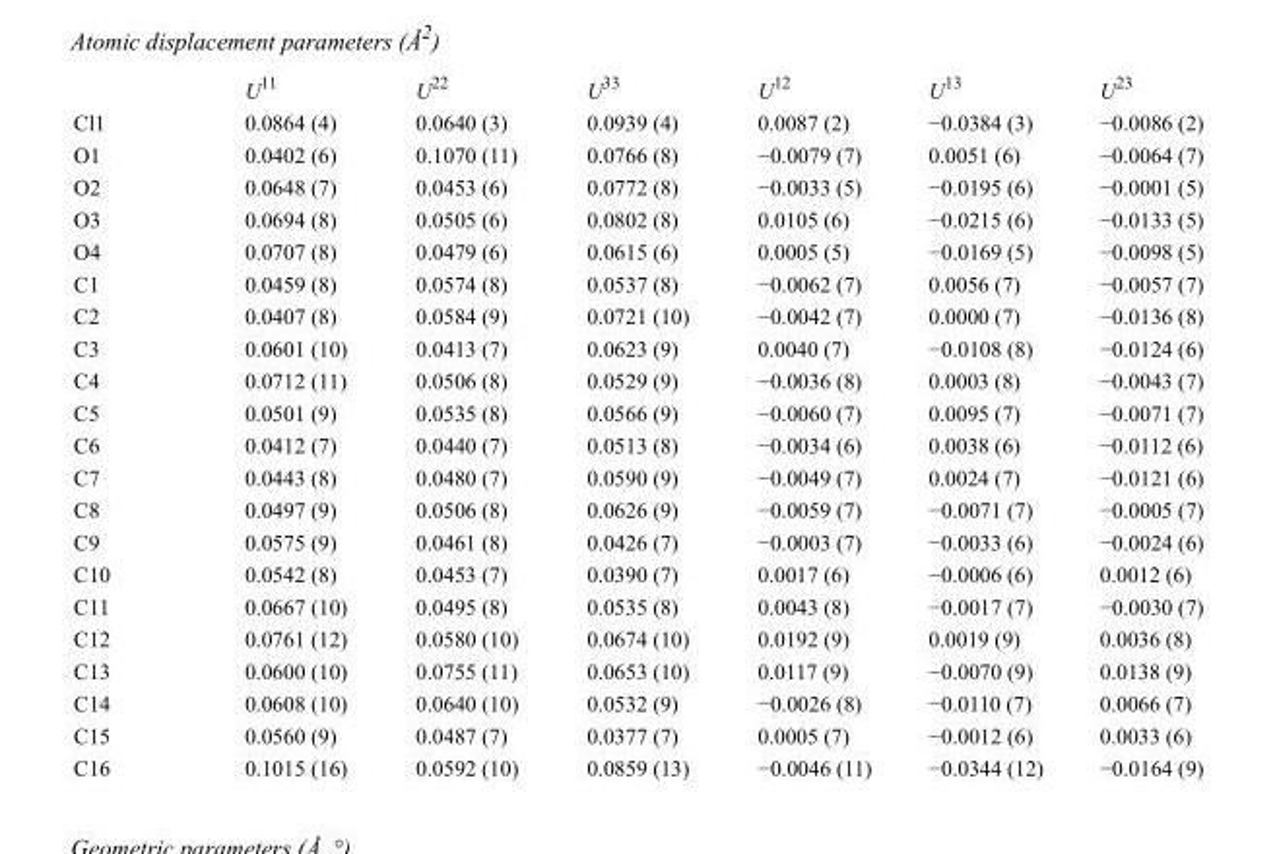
<table><thead><tr><td></td><td>U<sup>11</sup></td><td>U<sup>22</sup></td><td>U<sup>33</sup></td><td>U<sup>12</sup></td><td>U<sup>13</sup></td><td>U<sup>23</sup></td></tr></thead><tbody><tr><td>Cl1</td><td>0.0864 (4)</td><td>0.0640 (3)</td><td>0.0939 (4)</td><td>0.0087 (2)</td><td>−0.0384 (3)</td><td>−0.0086 (2)</td></tr><tr><td>O1</td><td>0.0402 (6)</td><td>0.1070 (11)</td><td>0.0766 (8)</td><td>−0.0079 (7)</td><td>0.0051 (6)</td><td>−0.0064 (7)</td></tr><tr><td>O2</td><td>0.0648 (7)</td><td>0.0453 (6)</td><td>0.0772 (8)</td><td>−0.0033 (5)</td><td>−0.0195 (6)</td><td>−0.0001 (5)</td></tr><tr><td>O3</td><td>0.0694 (8)</td><td>0.0505 (6)</td><td>0.0802 (8)</td><td>0.0105 (6)</td><td>−0.0215 (6)</td><td>−0.0133 (5)</td></tr><tr><td>O4</td><td>0.0707 (8)</td><td>0.0479 (6)</td><td>0.0615 (6)</td><td>0.0005 (5)</td><td>−0.0169 (5)</td><td>−0.0098 (5)</td></tr><tr><td>C1</td><td>0.0459 (8)</td><td>0.0574 (8)</td><td>0.0537 (8)</td><td>−0.0062 (7)</td><td>0.0056 (7)</td><td>−0.0057 (7)</td></tr><tr><td>C2</td><td>0.0407 (8)</td><td>0.0584 (9)</td><td>0.0721 (10)</td><td>−0.0042 (7)</td><td>0.0000 (7)</td><td>−0.0136 (8)</td></tr><tr><td>C3</td><td>0.0601 (10)</td><td>0.0413 (7)</td><td>0.0623 (9)</td><td>0.0040 (7)</td><td>−0.0108 (8)</td><td>−0.0124 (6)</td></tr><tr><td>C4</td><td>0.0712 (11)</td><td>0.0506 (8)</td><td>0.0529 (9)</td><td>−0.0036 (8)</td><td>0.0003 (8)</td><td>−0.0043 (7)</td></tr><tr><td>C5</td><td>0.0501 (9)</td><td>0.0535 (8)</td><td>0.0566 (9)</td><td>−0.0060 (7)</td><td>0.0095 (7)</td><td>−0.0071 (7)</td></tr><tr><td>C6</td><td>0.0412 (7)</td><td>0.0440 (7)</td><td>0.0513 (8)</td><td>−0.0034 (6)</td><td>0.0038 (6)</td><td>−0.0112 (6)</td></tr><tr><td>C7</td><td>0.0443 (8)</td><td>0.0480 (7)</td><td>0.0590 (9)</td><td>−0.0049 (7)</td><td>0.0024 (7)</td><td>−0.0121 (6)</td></tr><tr><td>C8</td><td>0.0497 (9)</td><td>0.0506 (8)</td><td>0.0626 (9)</td><td>−0.0059 (7)</td><td>−0.0071 (7)</td><td>−0.0005 (7)</td></tr><tr><td>C9</td><td>0.0575 (9)</td><td>0.0461 (8)</td><td>0.0426 (7)</td><td>−0.0003 (7)</td><td>−0.0033 (6)</td><td>−0.0024 (6)</td></tr><tr><td>C10</td><td>0.0542 (8)</td><td>0.0453 (7)</td><td>0.0390 (7)</td><td>0.0017 (6)</td><td>−0.0006 (6)</td><td>0.0012 (6)</td></tr><tr><td>C11</td><td>0.0667 (10)</td><td>0.0495 (8)</td><td>0.0535 (8)</td><td>0.0043 (8)</td><td>−0.0017 (7)</td><td>−0.0030 (7)</td></tr><tr><td>C12</td><td>0.0761 (12)</td><td>0.0580 (10)</td><td>0.0674 (10)</td><td>0.0192 (9)</td><td>0.0019 (9)</td><td>0.0036 (8)</td></tr><tr><td>C13</td><td>0.0600 (10)</td><td>0.0755 (11)</td><td>0.0653 (10)</td><td>0.0117 (9)</td><td>−0.0070 (9)</td><td>0.0138 (9)</td></tr><tr><td>C14</td><td>0.0608 (10)</td><td>0.0640 (10)</td><td>0.0532 (9)</td><td>−0.0026 (8)</td><td>−0.0110 (7)</td><td>0.0066 (7)</td></tr><tr><td>C15</td><td>0.0560 (9)</td><td>0.0487 (7)</td><td>0.0377 (7)</td><td>0.0005 (7)</td><td>−0.0012 (6)</td><td>0.0033 (6)</td></tr><tr><td>C16</td><td>0.1015 (16)</td><td>0.0592 (10)</td><td>0.0859 (13)</td><td>−0.0046 (11)</td><td>−0.0344 (12)</td><td>−0.0164 (9)</td></tr></tbody></table>